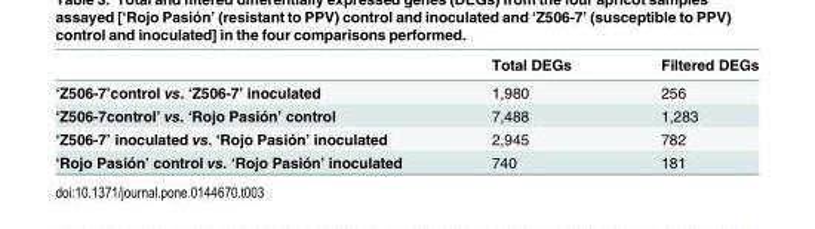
<table><thead><tr><td></td><td>Total DEGs</td><td>Filtered DEGs</td></tr></thead><tbody><tr><td>‘Z506-7’control vs. ‘Z506-7’ inoculated</td><td>1,980</td><td>256</td></tr><tr><td>‘Z506-7control’ vs. ‘Rojo Pasión’ control</td><td>7,488</td><td>1,283</td></tr><tr><td>‘Z506-7’ inoculated vs. ‘Rojo Pasión’ inoculated</td><td>2,945</td><td>782</td></tr><tr><td>‘Rojo Pasión’ control vs. ‘Rojo Pasión’ inoculated</td><td>740</td><td>181</td></tr></tbody></table>